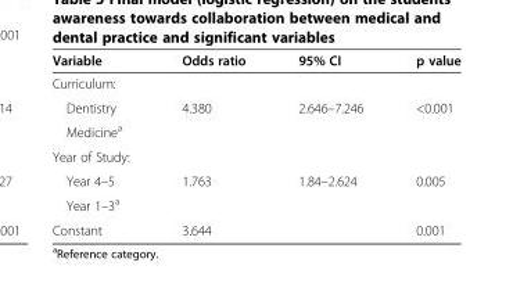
<table><thead><tr><td>Variable</td><td>Odds ratio</td><td>95% CI</td><td>p value</td></tr></thead><tbody><tr><td colspan="4">Curriculum:</td></tr><tr><td>Dentistry</td><td rowspan="2">4.380</td><td rowspan="2">2.646–7.246</td><td rowspan="2">&lt;0.001</td></tr><tr><td>Medicine<sup>a</sup></td></tr><tr><td colspan="4">Year of Study:</td></tr><tr><td>Year 4–5</td><td rowspan="2">1.763</td><td rowspan="2">1.84–2.624</td><td rowspan="2">0.005</td></tr><tr><td>Year 1–3<sup>a</sup></td></tr><tr><td>Constant</td><td>3.644</td><td></td><td>0.001</td></tr></tbody></table>